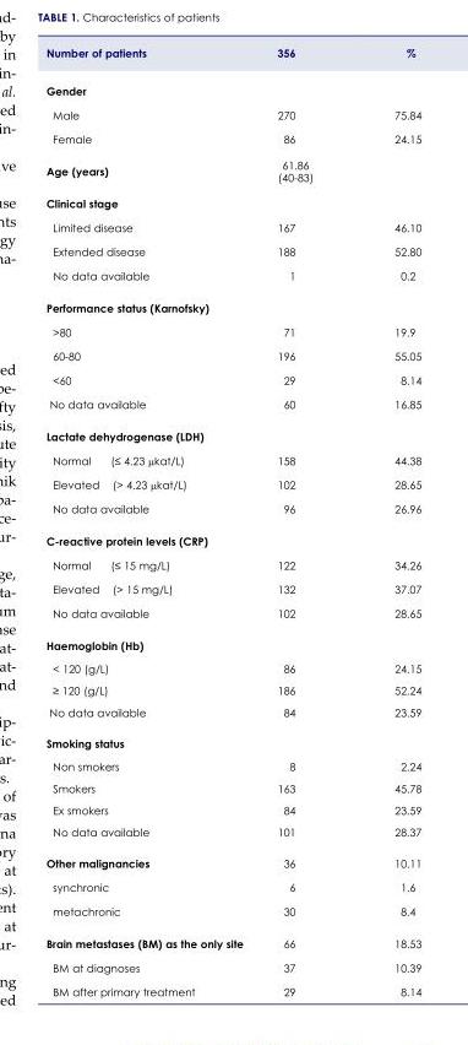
<table><thead><tr><td>Number of patients</td><td>356</td><td>%</td></tr></thead><tbody><tr><td colspan="3">Gender</td></tr><tr><td>Male</td><td>270</td><td>75.84</td></tr><tr><td>Female</td><td>86</td><td>24.15</td></tr><tr><td>Age (years)</td><td>61.86 (40-83)</td><td></td></tr><tr><td colspan="3">Clinical stage</td></tr><tr><td>Limited disease</td><td>167</td><td>46.10</td></tr><tr><td>Extended disease</td><td>188</td><td>52.80</td></tr><tr><td>No data available</td><td>1</td><td>0.2</td></tr><tr><td colspan="3">Performance status (Karnofsky)</td></tr><tr><td>&gt;80</td><td>71</td><td>19.9</td></tr><tr><td>60-80</td><td>196</td><td>55.05</td></tr><tr><td>&lt;60</td><td>29</td><td>8.14</td></tr><tr><td>No data available</td><td>60</td><td>16.85</td></tr><tr><td colspan="3">Lactate dehydrogenase (LDH)</td></tr><tr><td>Normal (≤ 4.23 μkat/L)</td><td>158</td><td>44.38</td></tr><tr><td>Elevated (&gt; 4.23 μkat/L)</td><td>102</td><td>28.65</td></tr><tr><td>No data available</td><td>96</td><td>26.96</td></tr><tr><td colspan="3">C-reactive protein levels (CRP)</td></tr><tr><td>Normal (≤ 15 mg/L)</td><td>122</td><td>34.26</td></tr><tr><td>Elevated (&gt; 15 mg/L)</td><td>132</td><td>37.07</td></tr><tr><td>No data available</td><td>102</td><td>28.65</td></tr><tr><td colspan="3">Haemoglobin (Hb)</td></tr><tr><td>&lt; 120 (g/L)</td><td>86</td><td>24.15</td></tr><tr><td>≥ 120 (g/L)</td><td>186</td><td>52.24</td></tr><tr><td>No data available</td><td>84</td><td>23.59</td></tr><tr><td colspan="3">Smoking status</td></tr><tr><td>Non smokers</td><td>8</td><td>2.24</td></tr><tr><td>Smokers</td><td>163</td><td>45.78</td></tr><tr><td>Ex smokers</td><td>84</td><td>23.59</td></tr><tr><td>No data available</td><td>101</td><td>28.37</td></tr><tr><td>Other malignancies</td><td>36</td><td>10.11</td></tr><tr><td>synchronic</td><td>6</td><td>1.6</td></tr><tr><td>metachronic</td><td>30</td><td>8.4</td></tr><tr><td>Brain metastases (BM) as the only site</td><td>66</td><td>18.53</td></tr><tr><td>BM at diagnoses</td><td>37</td><td>10.39</td></tr><tr><td>BM after primary treatment</td><td>29</td><td>8.14</td></tr></tbody></table>